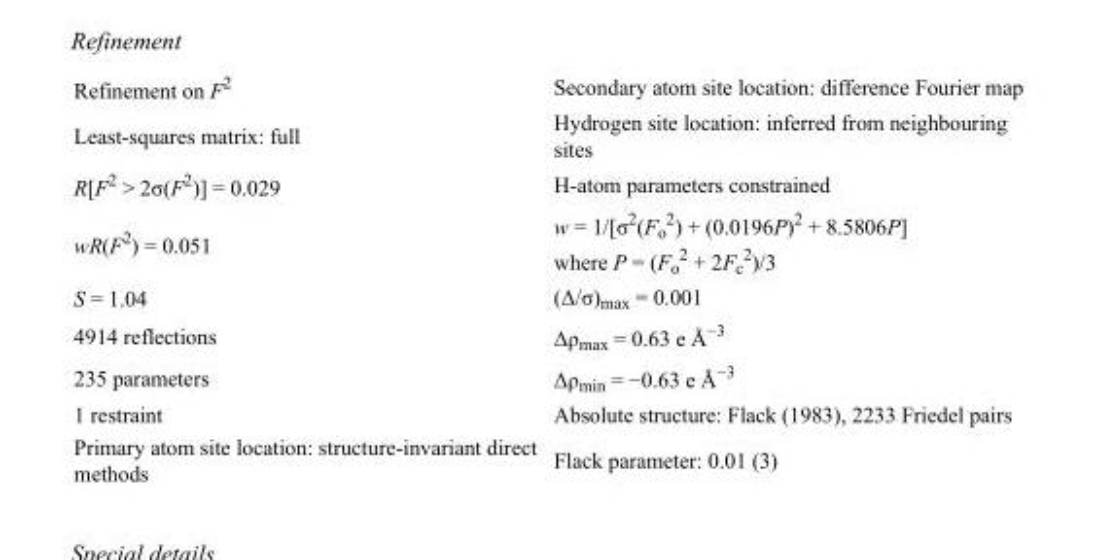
<table><tbody><tr><td>Refinement on F<sup>2</sup></td><td>Secondary atom site location: difference Fourier map</td></tr><tr><td>Least-squares matrix: full</td><td>Hydrogen site location: inferred from neighbouring sites</td></tr><tr><td>R[F<sup>2</sup> &gt; 2σ(F<sup>2</sup>)] = 0.029</td><td>H-atom parameters constrained</td></tr><tr><td>wR(F<sup>2</sup>) = 0.051</td><td>w = 1/[σ<sup>2</sup>(F<sub>o</sub> <sup>2</sup>) + (0.0196P)<sup>2</sup> + 8.5806P] where P = (F<sub>o</sub> <sup>2</sup> + 2F<sub>c</sub> <sup>2</sup>)/3</td></tr><tr><td>S = 1.04</td><td>(Δ/σ)<sub>max</sub> = 0.001</td></tr><tr><td>4914 reflections</td><td>Δρ<sub>max</sub> = 0.63 e Å<sup>−3</sup></td></tr><tr><td>235 parameters</td><td>Δρ<sub>min</sub> = −0.63 e Å<sup>−3</sup></td></tr><tr><td>1 restraint</td><td>Absolute structure: Flack (1983), 2233 Friedel pairs</td></tr><tr><td>Primary atom site location: structure-invariant direct methods</td><td>Flack parameter: 0.01 (3)</td></tr></tbody></table>